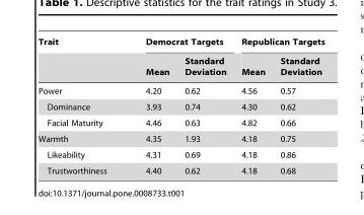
<table><thead><tr><td rowspan="2">Trait</td><td colspan="2">Democrat Targets</td><td colspan="2">Republican Targets</td></tr><tr><td>Mean</td><td>Standard Deviation</td><td>Mean</td><td>Standard Deviation</td></tr></thead><tbody><tr><td>Power</td><td>4.20</td><td>0.62</td><td>4.56</td><td>0.57</td></tr><tr><td>Dominance</td><td>3.93</td><td>0.74</td><td>4.30</td><td>0.62</td></tr><tr><td>Facial Maturity</td><td>4.46</td><td>0.63</td><td>4.82</td><td>0.66</td></tr><tr><td>Warmth</td><td>4.35</td><td>1.93</td><td>4.18</td><td>0.75</td></tr><tr><td>Likeability</td><td>4.31</td><td>0.69</td><td>4.18</td><td>0.86</td></tr><tr><td>Trustworthiness</td><td>4.40</td><td>0.62</td><td>4.18</td><td>0.68</td></tr></tbody></table>